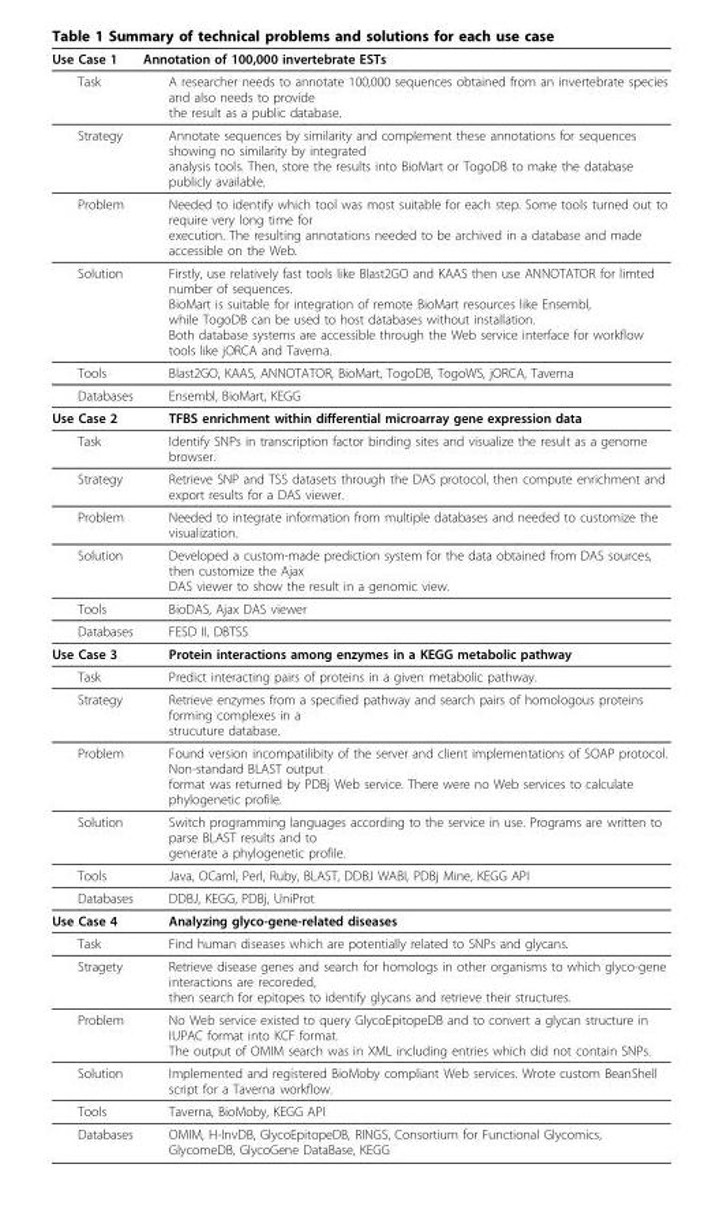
<table><thead><tr><td>Use Case 1</td><td>Annotation of 100,000 invertebrate ESTs</td></tr></thead><tbody><tr><td>Task</td><td>A researcher needs to annotate 100,000 sequences obtained from an invertebrate species and also needs to provide the result as a public database.</td></tr><tr><td>Strategy</td><td>Annotate sequences by similarity and complement these annotations for sequences showing no similarity by integrated analysis tools. Then, store the results into BioMart or TogoDB to make the database publicly available.</td></tr><tr><td>Problem</td><td>Needed to identify which tool was most suitable for each step. Some tools turned out to require very long time for execution. The resulting annotations needed to be archived in a database and made accessible on the Web.</td></tr><tr><td>Solution</td><td>Firstly, use relatively fast tools like Blast2GO and KAAS then use ANNOTATOR for limted number of sequences. BioMart is suitable for integration of remote BioMart resources like Ensembl, while TogoDB can be used to host databases without installation. Both database systems are accessible through the Web service interface for workflow tools like jORCA and Taverna.</td></tr><tr><td>Tools</td><td>Blast2GO, KAAS, ANNOTATOR, BioMart, TogoDB, TogoWS, jORCA, Taverna</td></tr><tr><td>Databases</td><td>Ensembl, BioMart, KEGG</td></tr><tr><td>Use Case 2</td><td>TFBS enrichment within differential microarray gene expression data</td></tr><tr><td>Task</td><td>Identify SNPs in transcription factor binding sites and visualize the result as a genome browser.</td></tr><tr><td>Strategy</td><td>Retrieve SNP and TSS datasets through the DAS protocol, then compute enrichment and export results for a DAS viewer.</td></tr><tr><td>Problem</td><td>Needed to integrate information from multiple databases and needed to customize the visualization.</td></tr><tr><td>Solution</td><td>Developed a custom-made prediction system for the data obtained from DAS sources, then customize the Ajax DAS viewer to show the result in a genomic view.</td></tr><tr><td>Tools</td><td>BioDAS, Ajax DAS viewer</td></tr><tr><td>Databases</td><td>FESD II, DBTSS</td></tr><tr><td>Use Case 3</td><td>Protein interactions among enzymes in a KEGG metabolic pathway</td></tr><tr><td>Task</td><td>Predict interacting pairs of proteins in a given metabolic pathway.</td></tr><tr><td>Strategy</td><td>Retrieve enzymes from a specified pathway and search pairs of homologous proteins forming complexes in a strucuture database.</td></tr><tr><td>Problem</td><td>Found version incompatilibity of the server and client implementations of SOAP protocol. Non-standard BLAST output format was returned by PDBj Web service. There were no Web services to calculate phylogenetic profile.</td></tr><tr><td>Solution</td><td>Switch programming languages according to the service in use. Programs are written to parse BLAST results and to generate a phylogenetic profile.</td></tr><tr><td>Tools</td><td>Java, OCaml, Perl, Ruby, BLAST, DDBJ WABI, PDBj Mine, KEGG API</td></tr><tr><td>Databases</td><td>DDBJ, KEGG, PDBj, UniProt</td></tr><tr><td>Use Case 4</td><td>Analyzing glyco-gene-related diseases</td></tr><tr><td>Task</td><td>Find human diseases which are potentially related to SNPs and glycans.</td></tr><tr><td>Stragety</td><td>Retrieve disease genes and search for homologs in other organisms to which glyco-gene interactions are recoreded, then search for epitopes to identify glycans and retrieve their structures.</td></tr><tr><td>Problem</td><td>No Web service existed to query GlycoEpitopeDB and to convert a glycan structure in IUPAC format into KCF format. The output of OMIM search was in XML including entries which did not contain SNPs.</td></tr><tr><td>Solution</td><td>Implemented and registered BioMoby compliant Web services. Wrote custom BeanShell script for a Taverna workflow.</td></tr><tr><td>Tools</td><td>Taverna, BioMoby, KEGG API</td></tr><tr><td>Databases</td><td>OMIM, H-InvDB, GlycoEpitopeDB, RINGS, Consortium for Functional Glycomics, GlycomeDB, GlycoGene DataBase, KEGG</td></tr></tbody></table>